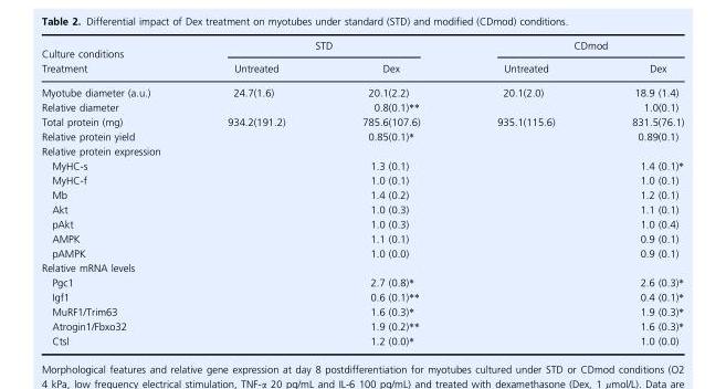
<table><thead><tr><td rowspan="2">Culture conditions Treatment</td><td colspan="2">STD</td><td colspan="2">CDmod</td></tr><tr><td>Untreated</td><td>Dex</td><td>Untreated</td><td>Dex</td></tr></thead><tbody><tr><td>Myotube diameter (a.u.)</td><td>24.7(1.6)</td><td>20.1(2.2)</td><td>20.1(2.0)</td><td>18.9 (1.4)</td></tr><tr><td>Relative diameter</td><td></td><td>0.8(0.1)**</td><td></td><td>1.0(0.1)</td></tr><tr><td>Total protein (mg)</td><td>934.2(191.2)</td><td>785.6(107.6)</td><td>935.1(115.6)</td><td>831.5(76.1)</td></tr><tr><td>Relative protein yield</td><td></td><td>0.85(0.1)*</td><td></td><td>0.89(0.1)</td></tr><tr><td colspan="5">Relative protein expression</td></tr><tr><td>MyHC-s</td><td></td><td>1.3 (0.1)</td><td></td><td>1.4 (0.1)*</td></tr><tr><td>MyHC-f</td><td></td><td>1.0 (0.1)</td><td></td><td>1.0 (0.1)</td></tr><tr><td>Mb</td><td></td><td>1.4 (0.2)</td><td></td><td>1.2 (0.1)</td></tr><tr><td>Akt</td><td></td><td>1.0 (0.3)</td><td></td><td>1.1 (0.1)</td></tr><tr><td>pAkt</td><td></td><td>1.0 (0.3)</td><td></td><td>1.0 (0.4)</td></tr><tr><td>AMPK</td><td></td><td>1.1 (0.1)</td><td></td><td>0.9 (0.1)</td></tr><tr><td>pAMPK</td><td></td><td>1.0 (0.0)</td><td></td><td>0.9 (0.1)</td></tr><tr><td colspan="5">Relative mRNA levels</td></tr><tr><td>Pgc1</td><td></td><td>2.7 (0.8)*</td><td></td><td>2.6 (0.3)*</td></tr><tr><td>Igf1</td><td></td><td>0.6 (0.1)**</td><td></td><td>0.4 (0.1)*</td></tr><tr><td>MuRF1/Trim63</td><td></td><td>1.6 (0.3)*</td><td></td><td>1.9 (0.3)*</td></tr><tr><td>Atrogin1/Fbxo32</td><td></td><td>1.9 (0.2)**</td><td></td><td>1.6 (0.3)*</td></tr><tr><td>Ctsl</td><td></td><td>1.2 (0.0)*</td><td></td><td>1.0 (0.0)</td></tr></tbody></table>